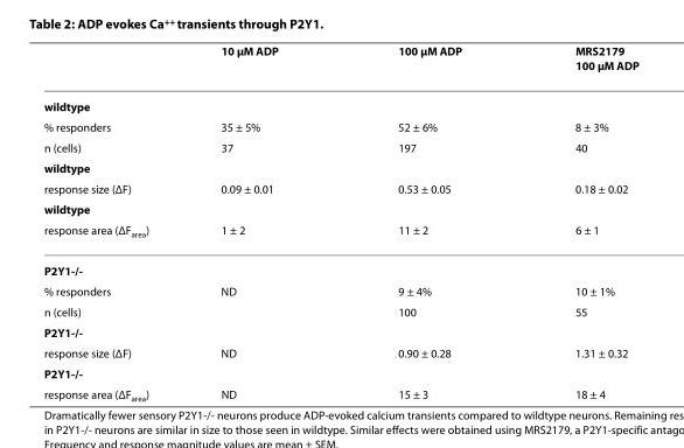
<table><thead><tr><td></td><td>10 μM ADP</td><td>100 μM ADP</td><td>MRS2179 100 μM ADP</td></tr></thead><tbody><tr><td colspan="4">wildtype</td></tr><tr><td>% responders</td><td>35 ± 5%</td><td>52 ± 6%</td><td>8 ± 3%</td></tr><tr><td>n (cells)</td><td>37</td><td>197</td><td>40</td></tr><tr><td colspan="4">wildtype</td></tr><tr><td>response size (ΔF)</td><td>0.09 ± 0.01</td><td>0.53 ± 0.05</td><td>0.18 ± 0.02</td></tr><tr><td colspan="4">wildtype</td></tr><tr><td>response area (ΔF<sub>area</sub>)</td><td>1 ± 2</td><td>11 ± 2</td><td>6 ± 1</td></tr><tr><td colspan="4">P2Y1-/-</td></tr><tr><td>% responders</td><td>ND</td><td>9 ± 4%</td><td>10 ± 1%</td></tr><tr><td>n (cells)</td><td></td><td>100</td><td>55</td></tr><tr><td colspan="4">P2Y1-/-</td></tr><tr><td>response size (ΔF)</td><td>ND</td><td>0.90 ± 0.28</td><td>1.31 ± 0.32</td></tr><tr><td colspan="4">P2Y1-/-</td></tr><tr><td>response area (ΔF<sub>area</sub>)</td><td>ND</td><td>15 ± 3</td><td>18 ± 4</td></tr></tbody></table>